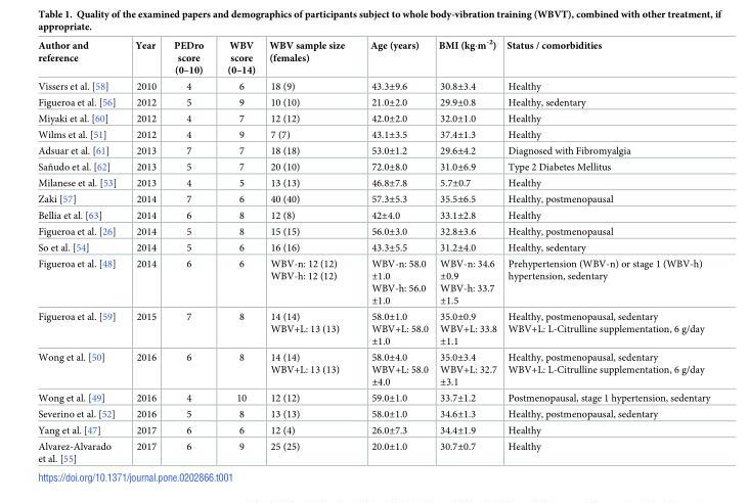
<table><thead><tr><td>Author and reference</td><td>Year</td><td>PEDro score (0–10)</td><td>WBV score (0–14)</td><td>WBV sample size (females)</td><td>Age (years)</td><td>BMI (kg∙m<sup>-2</sup>)</td><td>Status / comorbidities</td></tr></thead><tbody><tr><td>Vissers et al. [58]</td><td>2010</td><td>4</td><td>6</td><td>18 (9)</td><td>43.3±9.6</td><td>30.8±3.4</td><td>Healthy</td></tr><tr><td>Figueroa et al. [56]</td><td>2012</td><td>5</td><td>9</td><td>10 (10)</td><td>21.0±2.0</td><td>29.9±0.8</td><td>Healthy, sedentary</td></tr><tr><td>Miyaki et al. [60]</td><td>2012</td><td>4</td><td>7</td><td>12 (12)</td><td>42.0±2.0</td><td>32.0±1.0</td><td>Healthy</td></tr><tr><td>Wilms et al. [51]</td><td>2012</td><td>4</td><td>9</td><td>7 (7)</td><td>43.1±3.5</td><td>37.4±1.3</td><td>Healthy</td></tr><tr><td>Adsuar et al. [61]</td><td>2013</td><td>7</td><td>7</td><td>18 (18)</td><td>53.0±1.2</td><td>29.6±4.2</td><td>Diagnosed with Fibromyalgia</td></tr><tr><td>Sañudo et al. [62]</td><td>2013</td><td>5</td><td>7</td><td>20 (10)</td><td>72.0±8.0</td><td>31.0±6.9</td><td>Type 2 Diabetes Mellitus</td></tr><tr><td>Milanese et al. [53]</td><td>2013</td><td>4</td><td>5</td><td>13 (13)</td><td>46.8±7.8</td><td>5.7±0.7</td><td>Healthy</td></tr><tr><td>Zaki [57]</td><td>2014</td><td>7</td><td>6</td><td>40 (40)</td><td>57.3±5.3</td><td>35.5±6.5</td><td>Healthy, postmenopausal</td></tr><tr><td>Bellia et al. [63]</td><td>2014</td><td>6</td><td>8</td><td>12 (8)</td><td>42±4.0</td><td>33.1±2.8</td><td>Healthy</td></tr><tr><td>Figueroa et al. [26]</td><td>2014</td><td>5</td><td>8</td><td>15 (15)</td><td>56.0±3.0</td><td>32.8±3.6</td><td>Healthy, postmenopausal</td></tr><tr><td>So et al. [54]</td><td>2014</td><td>5</td><td>6</td><td>16 (16)</td><td>43.3±5.5</td><td>31.2±4.0</td><td>Healthy, sedentary</td></tr><tr><td>Figueroa et al. [48]</td><td>2014</td><td>6</td><td>6</td><td>WBV-n: 12 (12) WBV-h: 12 (12)</td><td>WBV-n: 58.0 ±1.0 WBV-h: 56.0 ±1.0</td><td>WBV-n: 34.6 ±0.9 WBV-h: 33.7 ±1.5</td><td>Prehypertension (WBV-n) or stage 1 (WBV-h) hypertension, sedentary</td></tr><tr><td>Figueroa et al. [59]</td><td>2015</td><td>7</td><td>8</td><td>14 (14) WBV+L: 13 (13)</td><td>58.0±1.0 WBV+L: 58.0 ±1.0</td><td>35.0±0.9 WBV+L: 33.8 ±1.1</td><td>Healthy, postmenopausal, sedentary WBV+L: L-Citrulline supplementation, 6 g/day</td></tr><tr><td>Wong et al. [50]</td><td>2016</td><td>6</td><td>8</td><td>14 (14) WBV+L: 13 (13)</td><td>58.0±4.0 WBV+L: 58.0 ±4.0</td><td>35.0±3.4 WBV+L: 32.7 ±3.1</td><td>Healthy, postmenopausal, sedentary WBV+L: L-Citrulline supplementation, 6 g/day</td></tr><tr><td>Wong et al. [49]</td><td>2016</td><td>4</td><td>10</td><td>12 (12)</td><td>59.0±1.0</td><td>33.7±1.2</td><td>Postmenopausal, stage 1 hypertension, sedentary</td></tr><tr><td>Severino et al. [52]</td><td>2016</td><td>5</td><td>8</td><td>13 (13)</td><td>58.0±1.0</td><td>34.6±1.3</td><td>Healthy, postmenopausal, sedentary</td></tr><tr><td>Yang et al. [47]</td><td>2017</td><td>6</td><td>6</td><td>12 (4)</td><td>26.0±7.3</td><td>34.4±1.9</td><td>Healthy</td></tr><tr><td>Alvarez-Alvarado et al. [55]</td><td>2017</td><td>6</td><td>9</td><td>25 (25)</td><td>20.0±1.0</td><td>30.7±0.7</td><td>Healthy</td></tr></tbody></table>